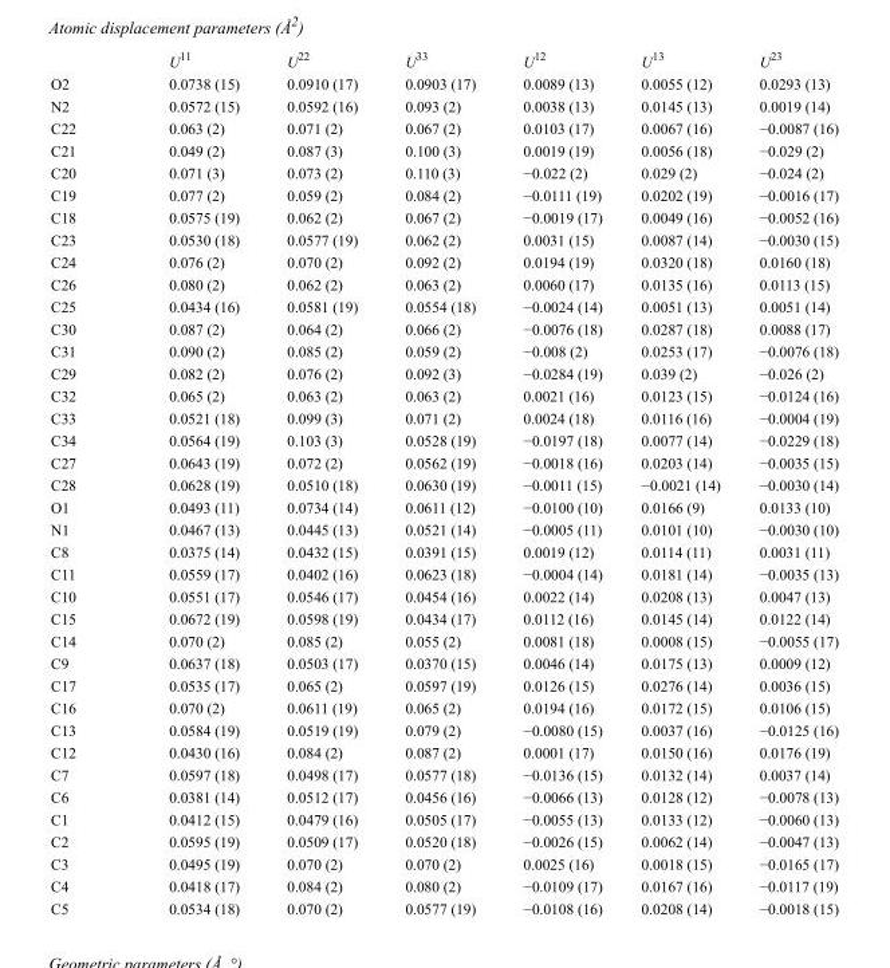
<table><thead><tr><td></td><td>U<sup>11</sup></td><td>U<sup>22</sup></td><td>U<sup>33</sup></td><td>U<sup>12</sup></td><td>U<sup>13</sup></td><td>U<sup>23</sup></td></tr></thead><tbody><tr><td>O2</td><td>0.0738 (15)</td><td>0.0910 (17)</td><td>0.0903 (17)</td><td>0.0089 (13)</td><td>0.0055 (12)</td><td>0.0293 (13)</td></tr><tr><td>N2</td><td>0.0572 (15)</td><td>0.0592 (16)</td><td>0.093 (2)</td><td>0.0038 (13)</td><td>0.0145 (13)</td><td>0.0019 (14)</td></tr><tr><td>C22</td><td>0.063 (2)</td><td>0.071 (2)</td><td>0.067 (2)</td><td>0.0103 (17)</td><td>0.0067 (16)</td><td>−0.0087 (16)</td></tr><tr><td>C21</td><td>0.049 (2)</td><td>0.087 (3)</td><td>0.100 (3)</td><td>0.0019 (19)</td><td>0.0056 (18)</td><td>−0.029 (2)</td></tr><tr><td>C20</td><td>0.071 (3)</td><td>0.073 (2)</td><td>0.110 (3)</td><td>−0.022 (2)</td><td>0.029 (2)</td><td>−0.024 (2)</td></tr><tr><td>C19</td><td>0.077 (2)</td><td>0.059 (2)</td><td>0.084 (2)</td><td>−0.0111 (19)</td><td>0.0202 (19)</td><td>−0.0016 (17)</td></tr><tr><td>C18</td><td>0.0575 (19)</td><td>0.062 (2)</td><td>0.067 (2)</td><td>−0.0019 (17)</td><td>0.0049 (16)</td><td>−0.0052 (16)</td></tr><tr><td>C23</td><td>0.0530 (18)</td><td>0.0577 (19)</td><td>0.062 (2)</td><td>0.0031 (15)</td><td>0.0087 (14)</td><td>−0.0030 (15)</td></tr><tr><td>C24</td><td>0.076 (2)</td><td>0.070 (2)</td><td>0.092 (2)</td><td>0.0194 (19)</td><td>0.0320 (18)</td><td>0.0160 (18)</td></tr><tr><td>C26</td><td>0.080 (2)</td><td>0.062 (2)</td><td>0.063 (2)</td><td>0.0060 (17)</td><td>0.0135 (16)</td><td>0.0113 (15)</td></tr><tr><td>C25</td><td>0.0434 (16)</td><td>0.0581 (19)</td><td>0.0554 (18)</td><td>−0.0024 (14)</td><td>0.0051 (13)</td><td>0.0051 (14)</td></tr><tr><td>C30</td><td>0.087 (2)</td><td>0.064 (2)</td><td>0.066 (2)</td><td>−0.0076 (18)</td><td>0.0287 (18)</td><td>0.0088 (17)</td></tr><tr><td>C31</td><td>0.090 (2)</td><td>0.085 (2)</td><td>0.059 (2)</td><td>−0.008 (2)</td><td>0.0253 (17)</td><td>−0.0076 (18)</td></tr><tr><td>C29</td><td>0.082 (2)</td><td>0.076 (2)</td><td>0.092 (3)</td><td>−0.0284 (19)</td><td>0.039 (2)</td><td>−0.026 (2)</td></tr><tr><td>C32</td><td>0.065 (2)</td><td>0.063 (2)</td><td>0.063 (2)</td><td>0.0021 (16)</td><td>0.0123 (15)</td><td>−0.0124 (16)</td></tr><tr><td>C33</td><td>0.0521 (18)</td><td>0.099 (3)</td><td>0.071 (2)</td><td>0.0024 (18)</td><td>0.0116 (16)</td><td>−0.0004 (19)</td></tr><tr><td>C34</td><td>0.0564 (19)</td><td>0.103 (3)</td><td>0.0528 (19)</td><td>−0.0197 (18)</td><td>0.0077 (14)</td><td>−0.0229 (18)</td></tr><tr><td>C27</td><td>0.0643 (19)</td><td>0.072 (2)</td><td>0.0562 (19)</td><td>−0.0018 (16)</td><td>0.0203 (14)</td><td>−0.0035 (15)</td></tr><tr><td>C28</td><td>0.0628 (19)</td><td>0.0510 (18)</td><td>0.0630 (19)</td><td>−0.0011 (15)</td><td>−0.0021 (14)</td><td>−0.0030 (14)</td></tr><tr><td>O1</td><td>0.0493 (11)</td><td>0.0734 (14)</td><td>0.0611 (12)</td><td>−0.0100 (10)</td><td>0.0166 (9)</td><td>0.0133 (10)</td></tr><tr><td>N1</td><td>0.0467 (13)</td><td>0.0445 (13)</td><td>0.0521 (14)</td><td>−0.0005 (11)</td><td>0.0101 (10)</td><td>−0.0030 (10)</td></tr><tr><td>C8</td><td>0.0375 (14)</td><td>0.0432 (15)</td><td>0.0391 (15)</td><td>0.0019 (12)</td><td>0.0114 (11)</td><td>0.0031 (11)</td></tr><tr><td>C11</td><td>0.0559 (17)</td><td>0.0402 (16)</td><td>0.0623 (18)</td><td>−0.0004 (14)</td><td>0.0181 (14)</td><td>−0.0035 (13)</td></tr><tr><td>C10</td><td>0.0551 (17)</td><td>0.0546 (17)</td><td>0.0454 (16)</td><td>0.0022 (14)</td><td>0.0208 (13)</td><td>0.0047 (13)</td></tr><tr><td>C15</td><td>0.0672 (19)</td><td>0.0598 (19)</td><td>0.0434 (17)</td><td>0.0112 (16)</td><td>0.0145 (14)</td><td>0.0122 (14)</td></tr><tr><td>C14</td><td>0.070 (2)</td><td>0.085 (2)</td><td>0.055 (2)</td><td>0.0081 (18)</td><td>0.0008 (15)</td><td>−0.0055 (17)</td></tr><tr><td>C9</td><td>0.0637 (18)</td><td>0.0503 (17)</td><td>0.0370 (15)</td><td>0.0046 (14)</td><td>0.0175 (13)</td><td>0.0009 (12)</td></tr><tr><td>C17</td><td>0.0535 (17)</td><td>0.065 (2)</td><td>0.0597 (19)</td><td>0.0126 (15)</td><td>0.0276 (14)</td><td>0.0036 (15)</td></tr><tr><td>C16</td><td>0.070 (2)</td><td>0.0611 (19)</td><td>0.065 (2)</td><td>0.0194 (16)</td><td>0.0172 (15)</td><td>0.0106 (15)</td></tr><tr><td>C13</td><td>0.0584 (19)</td><td>0.0519 (19)</td><td>0.079 (2)</td><td>−0.0080 (15)</td><td>0.0037 (16)</td><td>−0.0125 (16)</td></tr><tr><td>C12</td><td>0.0430 (16)</td><td>0.084 (2)</td><td>0.087 (2)</td><td>0.0001 (17)</td><td>0.0150 (16)</td><td>0.0176 (19)</td></tr><tr><td>C7</td><td>0.0597 (18)</td><td>0.0498 (17)</td><td>0.0577 (18)</td><td>−0.0136 (15)</td><td>0.0132 (14)</td><td>0.0037 (14)</td></tr><tr><td>C6</td><td>0.0381 (14)</td><td>0.0512 (17)</td><td>0.0456 (16)</td><td>−0.0066 (13)</td><td>0.0128 (12)</td><td>−0.0078 (13)</td></tr><tr><td>C1</td><td>0.0412 (15)</td><td>0.0479 (16)</td><td>0.0505 (17)</td><td>−0.0055 (13)</td><td>0.0133 (12)</td><td>−0.0060 (13)</td></tr><tr><td>C2</td><td>0.0595 (19)</td><td>0.0509 (17)</td><td>0.0520 (18)</td><td>−0.0026 (15)</td><td>0.0062 (14)</td><td>−0.0047 (13)</td></tr><tr><td>C3</td><td>0.0495 (19)</td><td>0.070 (2)</td><td>0.070 (2)</td><td>0.0025 (16)</td><td>0.0018 (15)</td><td>−0.0165 (17)</td></tr><tr><td>C4</td><td>0.0418 (17)</td><td>0.084 (2)</td><td>0.080 (2)</td><td>−0.0109 (17)</td><td>0.0167 (16)</td><td>−0.0117 (19)</td></tr><tr><td>C5</td><td>0.0534 (18)</td><td>0.070 (2)</td><td>0.0577 (19)</td><td>−0.0108 (16)</td><td>0.0208 (14)</td><td>−0.0018 (15)</td></tr></tbody></table>